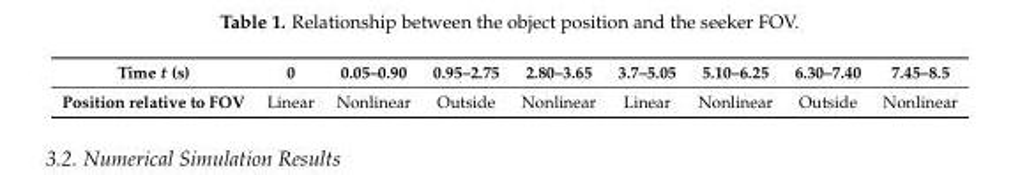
<table><thead><tr><td>Time t (s)</td><td>0</td><td>0.05–0.90</td><td>0.95–2.75</td><td>2.80–3.65</td><td>3.7–5.05</td><td>5.10–6.25</td><td>6.30–7.40</td><td>7.45–8.5</td></tr></thead><tbody><tr><td>Position relative to FOV</td><td>Linear</td><td>Nonlinear</td><td>Outside</td><td>Nonlinear</td><td>Linear</td><td>Nonlinear</td><td>Outside</td><td>Nonlinear</td></tr></tbody></table>